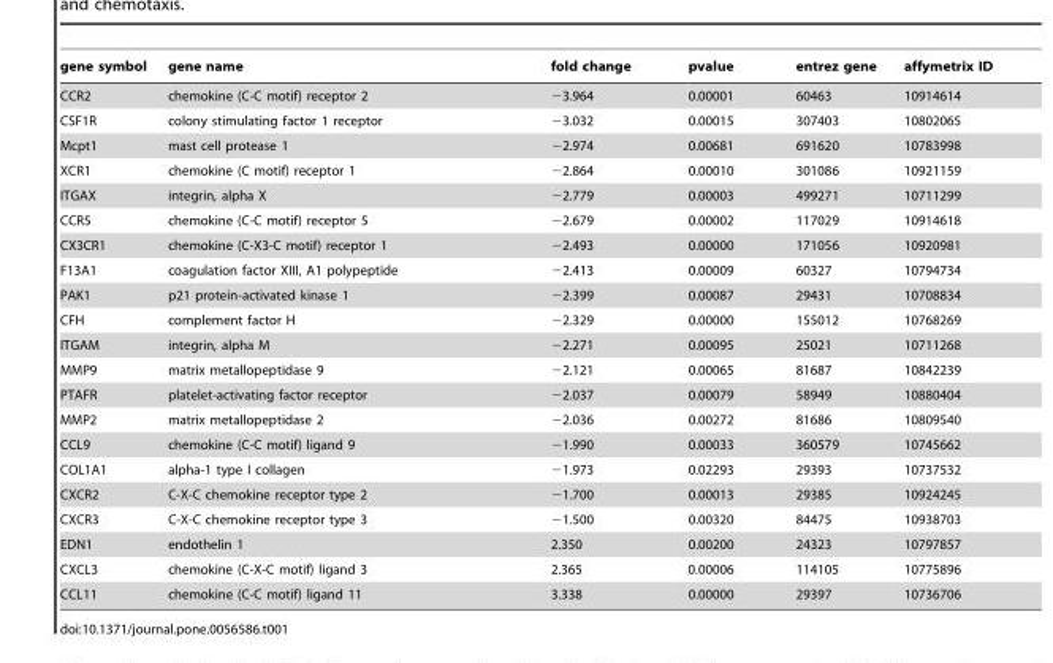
<table><thead><tr><td>gene symbol</td><td>gene name</td><td>fold change</td><td>pvalue</td><td>entrez gene</td><td>affymetrix ID</td></tr></thead><tbody><tr><td>CCR2</td><td>chemokine (C-C motif) receptor 2</td><td>−3.964</td><td>0.00001</td><td>60463</td><td>10914614</td></tr><tr><td>CSF1R</td><td>colony stimulating factor 1 receptor</td><td>−3.032</td><td>0.00015</td><td>307403</td><td>10802065</td></tr><tr><td>Mcpt1</td><td>mast cell protease 1</td><td>−2.974</td><td>0.00681</td><td>691620</td><td>10783998</td></tr><tr><td>XCR1</td><td>chemokine (C motif) receptor 1</td><td>−2.864</td><td>0.00010</td><td>301086</td><td>10921159</td></tr><tr><td>ITGAX</td><td>integrin, alpha X</td><td>−2.779</td><td>0.00003</td><td>499271</td><td>10711299</td></tr><tr><td>CCR5</td><td>chemokine (C-C motif) receptor 5</td><td>−2.679</td><td>0.00002</td><td>117029</td><td>10914618</td></tr><tr><td>CX3CR1</td><td>chemokine (C-X3-C motif) receptor 1</td><td>−2.493</td><td>0.00000</td><td>171056</td><td>10920981</td></tr><tr><td>F13A1</td><td>coagulation factor XIII, A1 polypeptide</td><td>−2.413</td><td>0.00009</td><td>60327</td><td>10794734</td></tr><tr><td>PAK1</td><td>p21 protein-activated kinase 1</td><td>−2.399</td><td>0.00087</td><td>29431</td><td>10708834</td></tr><tr><td>CFH</td><td>complement factor H</td><td>−2.329</td><td>0.00000</td><td>155012</td><td>10768269</td></tr><tr><td>ITGAM</td><td>integrin, alpha M</td><td>−2.271</td><td>0.00095</td><td>25021</td><td>10711268</td></tr><tr><td>MMP9</td><td>matrix metallopeptidase 9</td><td>−2.121</td><td>0.00065</td><td>81687</td><td>10842239</td></tr><tr><td>PTAFR</td><td>platelet-activating factor receptor</td><td>−2.037</td><td>0.00079</td><td>58949</td><td>10880404</td></tr><tr><td>MMP2</td><td>matrix metallopeptidase 2</td><td>−2.036</td><td>0.00272</td><td>81686</td><td>10809540</td></tr><tr><td>CCL9</td><td>chemokine (C-C motif) ligand 9</td><td>−1.990</td><td>0.00033</td><td>360579</td><td>10745662</td></tr><tr><td>COL1A1</td><td>alpha-1 type I collagen</td><td>−1.973</td><td>0.02293</td><td>29393</td><td>10737532</td></tr><tr><td>CXCR2</td><td>C-X-C chemokine receptor type 2</td><td>−1.700</td><td>0.00013</td><td>29385</td><td>10924245</td></tr><tr><td>CXCR3</td><td>C-X-C chemokine receptor type 3</td><td>−1.500</td><td>0.00320</td><td>84475</td><td>10938703</td></tr><tr><td>EDN1</td><td>endothelin 1</td><td>2.350</td><td>0.00200</td><td>24323</td><td>10797857</td></tr><tr><td>CXCL3</td><td>chemokine (C-X-C motif) ligand 3</td><td>2.365</td><td>0.00006</td><td>114105</td><td>10775896</td></tr><tr><td>CCL11</td><td>chemokine (C-C motif) ligand 11</td><td>3.338</td><td>0.00000</td><td>29397</td><td>10736706</td></tr></tbody></table>